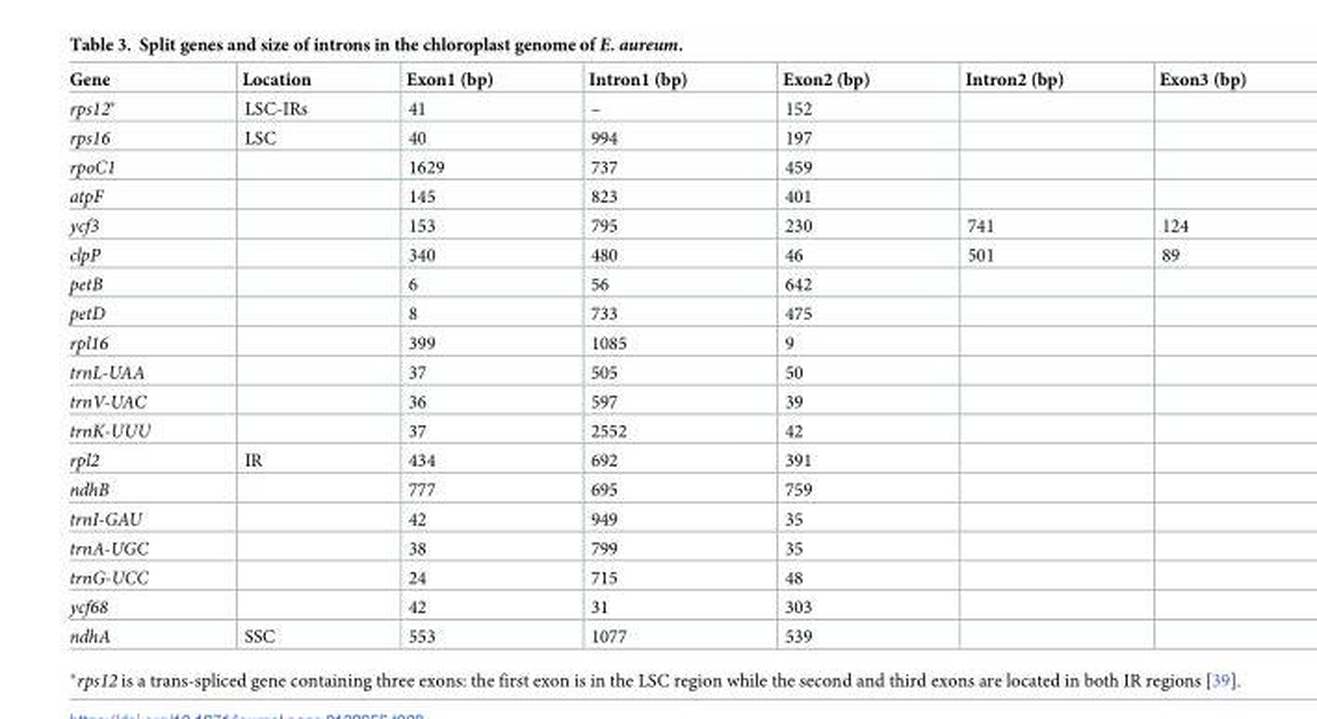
<table><thead><tr><td>Gene</td><td>Location</td><td>Exon1 (bp)</td><td>Intron1 (bp)</td><td>Exon2 (bp)</td><td>Intron2 (bp)</td><td>Exon3 (bp)</td></tr></thead><tbody><tr><td>rps12*</td><td>LSC-IRs</td><td>41</td><td>–</td><td>152</td><td></td><td></td></tr><tr><td>rps16</td><td>LSC</td><td>40</td><td>994</td><td>197</td><td></td><td></td></tr><tr><td>rpoC1</td><td></td><td>1629</td><td>737</td><td>459</td><td></td><td></td></tr><tr><td>atpF</td><td></td><td>145</td><td>823</td><td>401</td><td></td><td></td></tr><tr><td>ycf3</td><td></td><td>153</td><td>795</td><td>230</td><td>741</td><td>124</td></tr><tr><td>clpP</td><td></td><td>340</td><td>480</td><td>46</td><td>501</td><td>89</td></tr><tr><td>petB</td><td></td><td>6</td><td>56</td><td>642</td><td></td><td></td></tr><tr><td>petD</td><td></td><td>8</td><td>733</td><td>475</td><td></td><td></td></tr><tr><td>rpl16</td><td></td><td>399</td><td>1085</td><td>9</td><td></td><td></td></tr><tr><td>trnL-UAA</td><td></td><td>37</td><td>505</td><td>50</td><td></td><td></td></tr><tr><td>trnV-UAC</td><td></td><td>36</td><td>597</td><td>39</td><td></td><td></td></tr><tr><td>trnK-UUU</td><td></td><td>37</td><td>2552</td><td>42</td><td></td><td></td></tr><tr><td>rpl2</td><td>IR</td><td>434</td><td>692</td><td>391</td><td></td><td></td></tr><tr><td>ndhB</td><td></td><td>777</td><td>695</td><td>759</td><td></td><td></td></tr><tr><td>trnI-GAU</td><td></td><td>42</td><td>949</td><td>35</td><td></td><td></td></tr><tr><td>trnA-UGC</td><td></td><td>38</td><td>799</td><td>35</td><td></td><td></td></tr><tr><td>trnG-UCC</td><td></td><td>24</td><td>715</td><td>48</td><td></td><td></td></tr><tr><td>ycf68</td><td></td><td>42</td><td>31</td><td>303</td><td></td><td></td></tr><tr><td>ndhA</td><td>SSC</td><td>553</td><td>1077</td><td>539</td><td></td><td></td></tr></tbody></table>